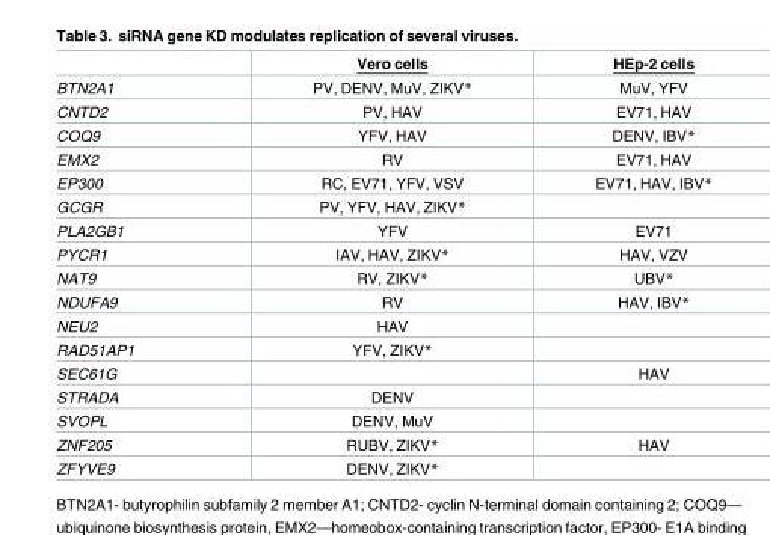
<table><thead><tr><td></td><td>Vero cells</td><td>HEp-2 cells</td></tr></thead><tbody><tr><td>BTN2A1</td><td>PV, DENV, MuV, ZIKV*</td><td>MuV, YFV</td></tr><tr><td>CNTD2</td><td>PV, HAV</td><td>EV71, HAV</td></tr><tr><td>COQ9</td><td>YFV, HAV</td><td>DENV, IBV*</td></tr><tr><td>EMX2</td><td>RV</td><td>EV71, HAV</td></tr><tr><td>EP300</td><td>RC, EV71, YFV, VSV</td><td>EV71, HAV, IBV*</td></tr><tr><td>GCGR</td><td>PV, YFV, HAV, ZIKV*</td><td></td></tr><tr><td>PLA2GB1</td><td>YFV</td><td>EV71</td></tr><tr><td>PYCR1</td><td>IAV, HAV, ZIKV*</td><td>HAV, VZV</td></tr><tr><td>NAT9</td><td>RV, ZIKV*</td><td>UBV*</td></tr><tr><td>NDUFA9</td><td>RV</td><td>HAV, IBV*</td></tr><tr><td>NEU2</td><td>HAV</td><td></td></tr><tr><td>RAD51AP1</td><td>YFV, ZIKV*</td><td></td></tr><tr><td>SEC61G</td><td></td><td>HAV</td></tr><tr><td>STRADA</td><td>DENV</td><td></td></tr><tr><td>SVOPL</td><td>DENV, MuV</td><td></td></tr><tr><td>ZNF205</td><td>RUBV, ZIKV*</td><td>HAV</td></tr><tr><td>ZFYVE9</td><td>DENV, ZIKV*</td><td></td></tr></tbody></table>